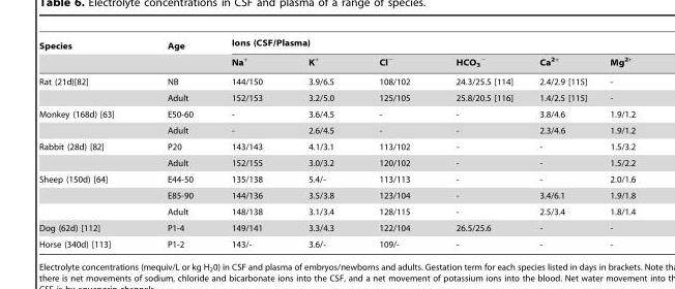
<table><thead><tr><td rowspan="2">Species</td><td rowspan="2">Age</td><td colspan="6">Ions (CSF/Plasma)</td></tr><tr><td>Na<sup>+</sup></td><td>K<sup>+</sup></td><td>Cl<sup>−</sup></td><td>HCO<sub>3</sub> <sup>−</sup></td><td>Ca<sup>2+</sup></td><td>Mg<sup>2+</sup></td></tr></thead><tbody><tr><td rowspan="2">Rat (21d)[82]</td><td>NB</td><td>144/150</td><td>3.9/6.5</td><td>108/102</td><td>24.3/25.5 [114]</td><td>2.4/2.9 [115]</td><td>-</td></tr><tr><td>Adult</td><td>152/153</td><td>3.2/5.0</td><td>125/105</td><td>25.8/20.5 [116]</td><td>1.4/2.5 [115]</td><td>-</td></tr><tr><td rowspan="2">Monkey (168d) [63]</td><td>E50-60</td><td>-</td><td>3.6/4.5</td><td>-</td><td>-</td><td>3.8/4.6</td><td>1.9/1.2</td></tr><tr><td>Adult</td><td>-</td><td>2.6/4.5</td><td>-</td><td>-</td><td>2.3/4.6</td><td>1.9/1.2</td></tr><tr><td rowspan="2">Rabbit (28d) [82]</td><td>P20</td><td>143/143</td><td>4.1/3.1</td><td>113/102</td><td>-</td><td>-</td><td>1.5/3.2</td></tr><tr><td>Adult</td><td>152/155</td><td>3.0/3.2</td><td>120/102</td><td>-</td><td>-</td><td>1.5/2.2</td></tr><tr><td rowspan="3">Sheep (150d) [64]</td><td>E44-50</td><td>135/138</td><td>5.4/-</td><td>113/113</td><td>-</td><td>-</td><td>2.0/1.6</td></tr><tr><td>E85-90</td><td>144/136</td><td>3.5/3.8</td><td>123/104</td><td>-</td><td>3.4/6.1</td><td>1.9/1.8</td></tr><tr><td>Adult</td><td>148/138</td><td>3.1/3.4</td><td>128/115</td><td>-</td><td>2.5/3.4</td><td>1.8/1.4</td></tr><tr><td>Dog (62d) [112]</td><td>P1-4</td><td>149/141</td><td>3.3/4.3</td><td>122/104</td><td>26.5/25.6</td><td>-</td><td>-</td></tr><tr><td>Horse (340d) [113]</td><td>P1-2</td><td>143/-</td><td>3.6/-</td><td>109/-</td><td>-</td><td>-</td><td>-</td></tr></tbody></table>